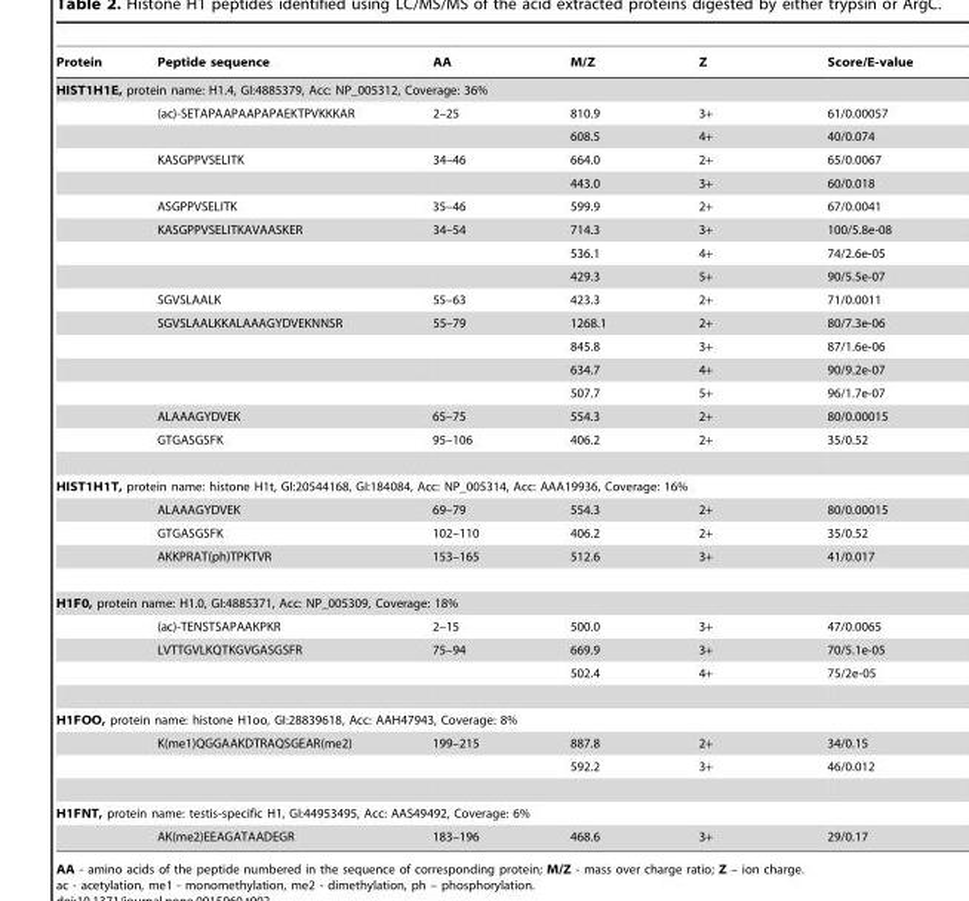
<table><thead><tr><td>Protein</td><td>Peptide sequence</td><td>AA</td><td>M/Z</td><td>Z</td><td>Score/E-value</td></tr></thead><tbody><tr><td colspan="6">HIST1H1E, protein name: H1.4, GI:4885379, Acc: NP_005312, Coverage: 36%</td></tr><tr><td></td><td>(ac)-SETAPAAPAAPAPAEKTPVKKKAR</td><td>2–25</td><td>810.9</td><td>3+</td><td>61/0.00057</td></tr><tr><td></td><td></td><td></td><td>608.5</td><td>4+</td><td>40/0.074</td></tr><tr><td></td><td>KASGPPVSELITK</td><td>34–46</td><td>664.0</td><td>2+</td><td>65/0.0067</td></tr><tr><td></td><td></td><td></td><td>443.0</td><td>3+</td><td>60/0.018</td></tr><tr><td></td><td>ASGPPVSELITK</td><td>35–46</td><td>599.9</td><td>2+</td><td>67/0.0041</td></tr><tr><td></td><td>KASGPPVSELITKAVAASKER</td><td>34–54</td><td>714.3</td><td>3+</td><td>100/5.8e-08</td></tr><tr><td></td><td></td><td></td><td>536.1</td><td>4+</td><td>74/2.6e-05</td></tr><tr><td></td><td></td><td></td><td>429.3</td><td>5+</td><td>90/5.5e-07</td></tr><tr><td></td><td>SGVSLAALK</td><td>55–63</td><td>423.3</td><td>2+</td><td>71/0.0011</td></tr><tr><td></td><td>SGVSLAALKKALAAAGYDVEKNNSR</td><td>55–79</td><td>1268.1</td><td>2+</td><td>80/7.3e-06</td></tr><tr><td></td><td></td><td></td><td>845.8</td><td>3+</td><td>87/1.6e-06</td></tr><tr><td></td><td></td><td></td><td>634.7</td><td>4+</td><td>90/9.2e-07</td></tr><tr><td></td><td></td><td></td><td>507.7</td><td>5+</td><td>96/1.7e-07</td></tr><tr><td></td><td>ALAAAGYDVEK</td><td>65–75</td><td>554.3</td><td>2+</td><td>80/0.00015</td></tr><tr><td></td><td>GTGASGSFK</td><td>95–106</td><td>406.2</td><td>2+</td><td>35/0.52</td></tr><tr><td colspan="6">HIST1H1T, protein name: histone H1t, GI:20544168, GI:184084, Acc: NP_005314, Acc: AAA19936, Coverage: 16%</td></tr><tr><td></td><td>ALAAAGYDVEK</td><td>69–79</td><td>554.3</td><td>2+</td><td>80/0.00015</td></tr><tr><td></td><td>GTGASGSFK</td><td>102–110</td><td>406.2</td><td>2+</td><td>35/0.52</td></tr><tr><td></td><td>AKKPRAT(ph)TPKTVR</td><td>153–165</td><td>512.6</td><td>3+</td><td>41/0.017</td></tr><tr><td colspan="6">H1F0, protein name: H1.0, GI:4885371, Acc: NP_005309, Coverage: 18%</td></tr><tr><td></td><td>(ac)-TENSTSAPAAKPKR</td><td>2–15</td><td>500.0</td><td>3+</td><td>47/0.0065</td></tr><tr><td></td><td>LVTTGVLKQTKGVGASGSFR</td><td>75–94</td><td>669.9</td><td>3+</td><td>70/5.1e-05</td></tr><tr><td></td><td></td><td></td><td>502.4</td><td>4+</td><td>75/2e-05</td></tr><tr><td colspan="6">H1FOO, protein name: histone H1oo, GI:28839618, Acc: AAH47943, Coverage: 8%</td></tr><tr><td></td><td>K(me1)QGGAAKDTRAQSGEAR(me2)</td><td>199–215</td><td>887.8</td><td>2+</td><td>34/0.15</td></tr><tr><td></td><td></td><td></td><td>592.2</td><td>3+</td><td>46/0.012</td></tr><tr><td colspan="6">H1FNT, protein name: testis-specific H1, GI:44953495, Acc: AAS49492, Coverage: 6%</td></tr><tr><td></td><td>AK(me2)EEAGATAADEGR</td><td>183–196</td><td>468.6</td><td>3+</td><td>29/0.17</td></tr></tbody></table>